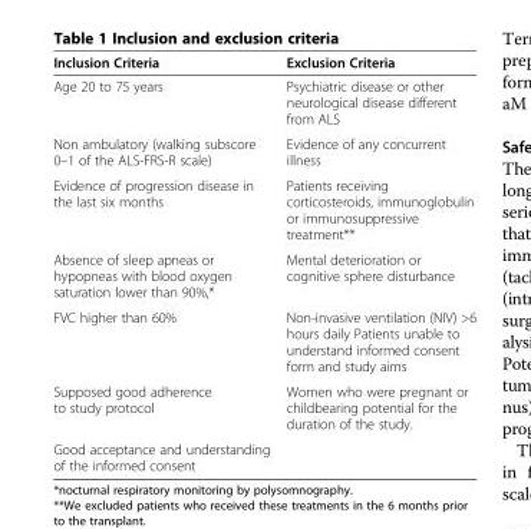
<table><thead><tr><td>Inclusion Criteria</td><td>Exclusion Criteria</td></tr></thead><tbody><tr><td>Age 20 to 75 years</td><td>Psychiatric disease or other neurological disease different from ALS</td></tr><tr><td>Non ambulatory (walking subscore 0–1 of the ALS-FRS-R scale)</td><td>Evidence of any concurrent illness</td></tr><tr><td>Evidence of progression disease in the last six months</td><td>Patients receiving corticosteroids, immunoglobulin or immunosuppressive treatment**</td></tr><tr><td>Absence of sleep apneas or hypopneas with blood oxygen saturation lower than 90%,*</td><td>Mental deterioration or cognitive sphere disturbance</td></tr><tr><td>FVC higher than 60%</td><td>Non-invasive ventilation (NIV) &gt;6 hours daily Patients unable to understand informed consent form and study aims</td></tr><tr><td>Supposed good adherence to study protocol</td><td>Women who were pregnant or childbearing potential for the duration of the study.</td></tr><tr><td>Good acceptance and understanding of the informed consent</td><td></td></tr></tbody></table>